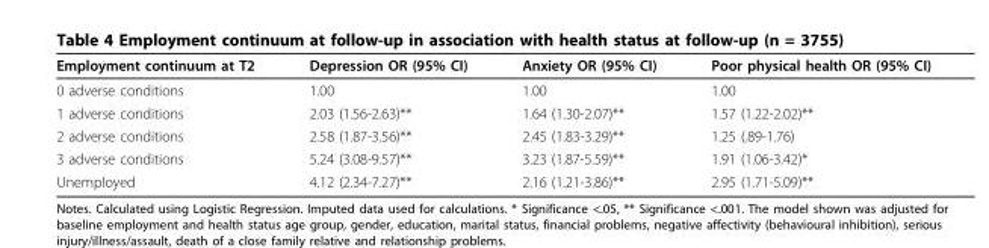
<table><thead><tr><td>Employment continuum at T2</td><td>Depression OR (95% CI)</td><td>Anxiety OR (95% CI)</td><td>Poor physical health OR (95% CI)</td></tr></thead><tbody><tr><td>0 adverse conditions</td><td>1.00</td><td>1.00</td><td>1.00</td></tr><tr><td>1 adverse conditions</td><td>2.03 (1.56-2.63)**</td><td>1.64 (1.30-2.07)**</td><td>1.57 (1.22-2.02)**</td></tr><tr><td>2 adverse conditions</td><td>2.58 (1.87-3.56)**</td><td>2.45 (1.83-3.29)**</td><td>1.25 (.89-1.76)</td></tr><tr><td>3 adverse conditions</td><td>5.24 (3.08-9.57)**</td><td>3.23 (1.87-5.59)**</td><td>1.91 (1.06-3.42)*</td></tr><tr><td>Unemployed</td><td>4.12 (2.34-7.27)**</td><td>2.16 (1.21-3.86)**</td><td>2.95 (1.71-5.09)**</td></tr></tbody></table>